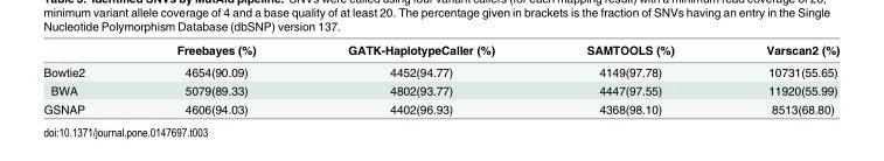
<table><thead><tr><td></td><td>Freebayes (%)</td><td>GATK-HaplotypeCaller (%)</td><td>SAMTOOLS (%)</td><td>Varscan2 (%)</td></tr></thead><tbody><tr><td>Bowtie2</td><td>4654(90.09)</td><td>4452(94.77)</td><td>4149(97.78)</td><td>10731(55.65)</td></tr><tr><td>BWA</td><td>5079(89.33)</td><td>4802(93.77)</td><td>4447(97.55)</td><td>11920(55.99)</td></tr><tr><td>GSNAP</td><td>4606(94.03)</td><td>4402(96.93)</td><td>4368(98.10)</td><td>8513(68.80)</td></tr></tbody></table>